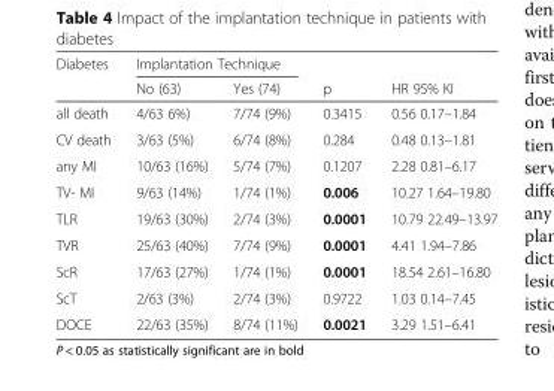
<table><thead><tr><td rowspan="2">Diabetes</td><td colspan="2">Implantation Technique</td><td rowspan="2">p</td><td rowspan="2">HR 95% KI</td></tr><tr><td>No (63)</td><td>Yes (74)</td></tr></thead><tbody><tr><td>all death</td><td>4/63 6%)</td><td>7/74 (9%)</td><td>0.3415</td><td>0.56 0.17–1.84</td></tr><tr><td>CV death</td><td>3/63 (5%)</td><td>6/74 (8%)</td><td>0.284</td><td>0.48 0.13–1.81</td></tr><tr><td>any MI</td><td>10/63 (16%)</td><td>5/74 (7%)</td><td>0.1207</td><td>2.28 0.81–6.17</td></tr><tr><td>TV- MI</td><td>9/63 (14%)</td><td>1/74 (1%)</td><td>0.006</td><td>10.27 1.64–19.80</td></tr><tr><td>TLR</td><td>19/63 (30%)</td><td>2/74 (3%)</td><td>0.0001</td><td>10.79 22.49–13.97</td></tr><tr><td>TVR</td><td>25/63 (40%)</td><td>7/74 (9%)</td><td>0.0001</td><td>4.41 1.94–7.86</td></tr><tr><td>ScR</td><td>17/63 (27%)</td><td>1/74 (1%)</td><td>0.0001</td><td>18.54 2.61–16.80</td></tr><tr><td>ScT</td><td>2/63 (3%)</td><td>2/74 (3%)</td><td>0.9722</td><td>1.03 0.14–7.45</td></tr><tr><td>DOCE</td><td>22/63 (35%)</td><td>8/74 (11%)</td><td>0.0021</td><td>3.29 1.51–6.41</td></tr></tbody></table>